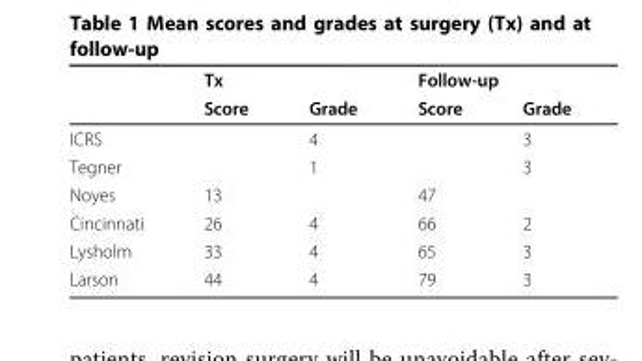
<table><thead><tr><td rowspan="2"></td><td rowspan="2">Tx Score</td><td rowspan="2">Grade</td><td colspan="2">Follow-up</td></tr><tr><td>Score</td><td>Grade</td></tr></thead><tbody><tr><td>ICRS</td><td></td><td>4</td><td></td><td>3</td></tr><tr><td>Tegner</td><td></td><td>1</td><td></td><td>3</td></tr><tr><td>Noyes</td><td>13</td><td></td><td>47</td><td></td></tr><tr><td>Cincinnati</td><td>26</td><td>4</td><td>66</td><td>2</td></tr><tr><td>Lysholm</td><td>33</td><td>4</td><td>65</td><td>3</td></tr><tr><td>Larson</td><td>44</td><td>4</td><td>79</td><td>3</td></tr></tbody></table>